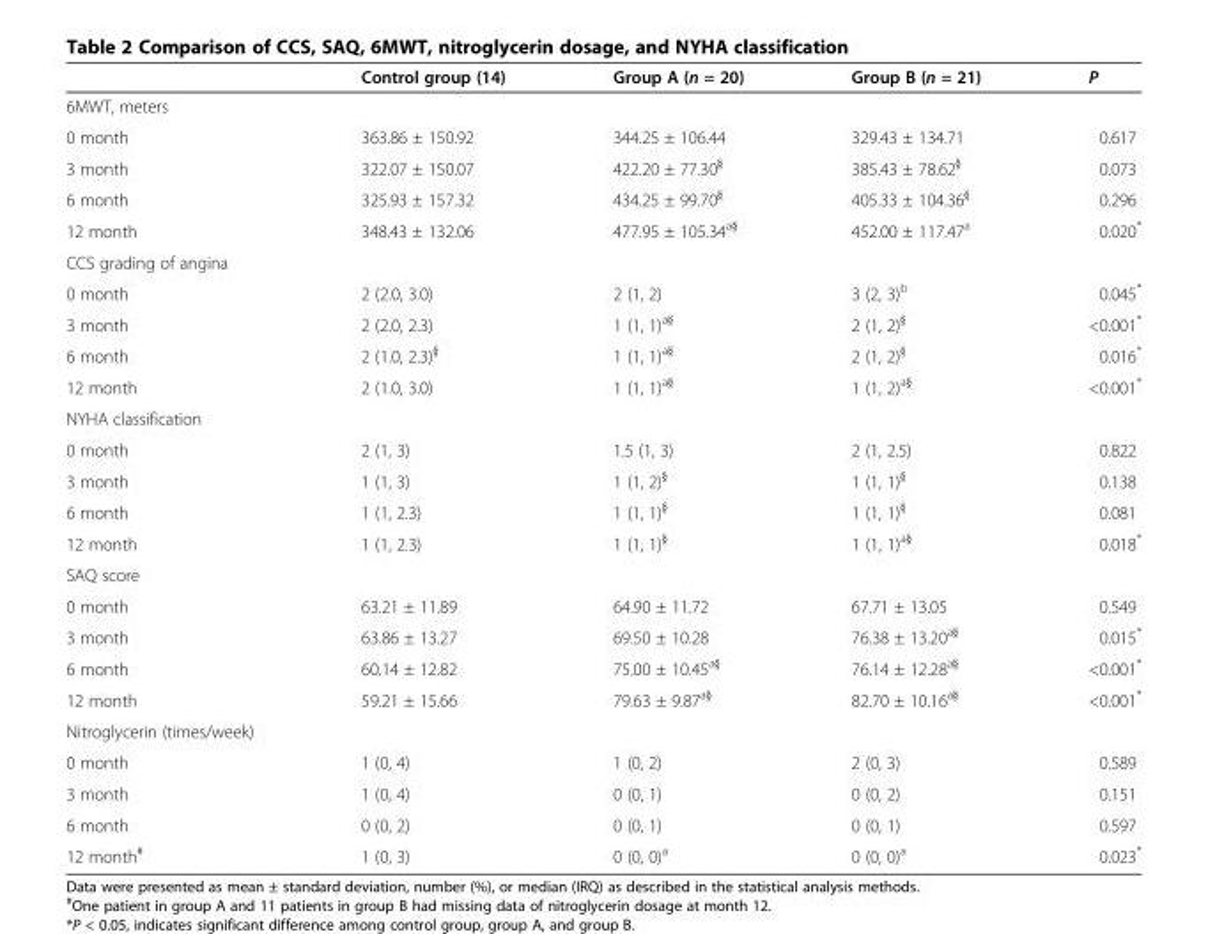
<table><thead><tr><td></td><td>Control group (14)</td><td>Group A (n = 20)</td><td>Group B (n = 21)</td><td>P</td></tr></thead><tbody><tr><td colspan="5">6MWT, meters</td></tr><tr><td>0 month</td><td>363.86 ± 150.92</td><td>344.25 ± 106.44</td><td>329.43 ± 134.71</td><td>0.617</td></tr><tr><td>3 month</td><td>322.07 ± 150.07</td><td>422.20 ± 77.30<sup>§</sup></td><td>385.43 ± 78.62<sup>§</sup></td><td>0.073</td></tr><tr><td>6 month</td><td>325.93 ± 157.32</td><td>434.25 ± 99.70<sup>§</sup></td><td>405.33 ± 104.36<sup>§</sup></td><td>0.296</td></tr><tr><td>12 month</td><td>348.43 ± 132.06</td><td>477.95 ± 105.34<sup>a§</sup></td><td>452.00 ± 117.47<sup>a</sup></td><td>0.020*</td></tr><tr><td colspan="5">CCS grading of angina</td></tr><tr><td>0 month</td><td>2 (2.0, 3.0)</td><td>2 (1, 2)</td><td>3 (2, 3)<sup>b</sup></td><td>0.045*</td></tr><tr><td>3 month</td><td>2 (2.0, 2.3)</td><td>1 (1, 1)<sup>a§</sup></td><td>2 (1, 2)<sup>§</sup></td><td>&lt;0.001*</td></tr><tr><td>6 month</td><td>2 (1.0, 2.3)<sup>§</sup></td><td>1 (1, 1)<sup>a§</sup></td><td>2 (1, 2)<sup>§</sup></td><td>0.016*</td></tr><tr><td>12 month</td><td>2 (1.0, 3.0)</td><td>1 (1, 1)<sup>a§</sup></td><td>1 (1, 2)<sup>a§</sup></td><td>&lt;0.001*</td></tr><tr><td colspan="5">NYHA classification</td></tr><tr><td>0 month</td><td>2 (1, 3)</td><td>1.5 (1, 3)</td><td>2 (1, 2.5)</td><td>0.822</td></tr><tr><td>3 month</td><td>1 (1, 3)</td><td>1 (1, 2)<sup>§</sup></td><td>1 (1, 1)<sup>§</sup></td><td>0.138</td></tr><tr><td>6 month</td><td>1 (1, 2.3)</td><td>1 (1, 1)<sup>§</sup></td><td>1 (1, 1)<sup>§</sup></td><td>0.081</td></tr><tr><td>12 month</td><td>1 (1, 2.3)</td><td>1 (1, 1)<sup>§</sup></td><td>1 (1, 1)<sup>a§</sup></td><td>0.018*</td></tr><tr><td colspan="5">SAQ score</td></tr><tr><td>0 month</td><td>63.21 ± 11.89</td><td>64.90 ± 11.72</td><td>67.71 ± 13.05</td><td>0.549</td></tr><tr><td>3 month</td><td>63.86 ± 13.27</td><td>69.50 ± 10.28</td><td>76.38 ± 13.20<sup>a§</sup></td><td>0.015*</td></tr><tr><td>6 month</td><td>60.14 ± 12.82</td><td>75.00 ± 10.45<sup>a§</sup></td><td>76.14 ± 12.28<sup>a§</sup></td><td>&lt;0.001*</td></tr><tr><td>12 month</td><td>59.21 ± 15.66</td><td>79.63 ± 9.87<sup>a§</sup></td><td>82.70 ± 10.16<sup>a§</sup></td><td>&lt;0.001*</td></tr><tr><td colspan="5">Nitroglycerin (times/week)</td></tr><tr><td>0 month</td><td>1 (0, 4)</td><td>1 (0, 2)</td><td>2 (0, 3)</td><td>0.589</td></tr><tr><td>3 month</td><td>1 (0, 4)</td><td>0 (0, 1)</td><td>0 (0, 2)</td><td>0.151</td></tr><tr><td>6 month</td><td>0 (0, 2)</td><td>0 (0, 1)</td><td>0 (0, 1)</td><td>0.597</td></tr><tr><td>12 month<sup>#</sup></td><td>1 (0, 3)</td><td>0 (0, 0)<sup>a</sup></td><td>0 (0, 0)<sup>a</sup></td><td>0.023*</td></tr></tbody></table>